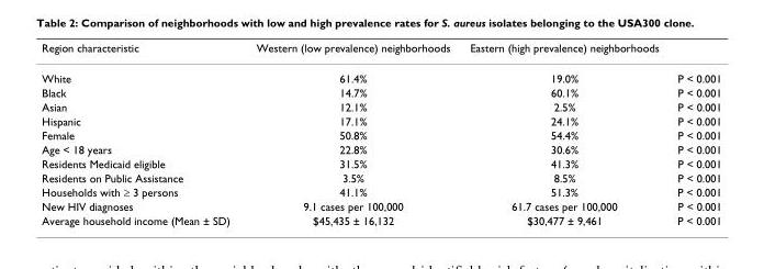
<table><thead><tr><td>Region characteristic</td><td>Western (low prevalence) neighborhoods</td><td>Eastern (high prevalence) neighborhoods</td><td></td></tr></thead><tbody><tr><td>White</td><td>61.4%</td><td>19.0%</td><td>P &lt; 0.001</td></tr><tr><td>Black</td><td>14.7%</td><td>60.1%</td><td>P &lt; 0.001</td></tr><tr><td>Asian</td><td>12.1%</td><td>2.5%</td><td>P &lt; 0.001</td></tr><tr><td>Hispanic</td><td>17.1%</td><td>24.1%</td><td>P &lt; 0.001</td></tr><tr><td>Female</td><td>50.8%</td><td>54.4%</td><td>P &lt; 0.001</td></tr><tr><td>Age &lt; 18 years</td><td>22.8%</td><td>30.6%</td><td>P &lt; 0.001</td></tr><tr><td>Residents Medicaid eligible</td><td>31.5%</td><td>41.3%</td><td>P &lt; 0.001</td></tr><tr><td>Residents on Public Assistance</td><td>3.5%</td><td>8.5%</td><td>P &lt; 0.001</td></tr><tr><td>Households with ≥ 3 persons</td><td>41.1%</td><td>51.3%</td><td>P &lt; 0.001</td></tr><tr><td>New HIV diagnoses</td><td>9.1 cases per 100,000</td><td>61.7 cases per 100,000</td><td>P &lt; 0.001</td></tr><tr><td>Average household income (Mean ± SD)</td><td>$45,435 ± 16,132</td><td>$30,477 ± 9,461</td><td>P &lt; 0.001</td></tr></tbody></table>